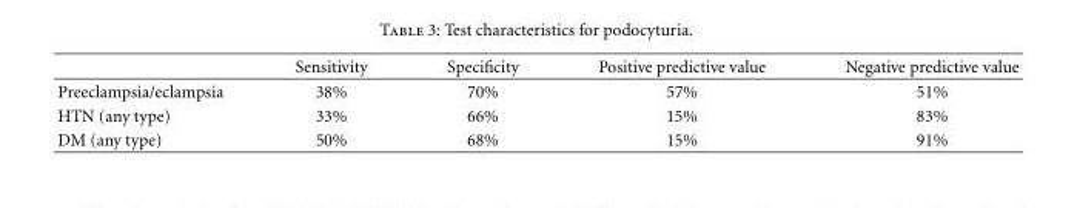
<table><thead><tr><td></td><td>Sensitivity</td><td>Specificity</td><td>Positive predictive value</td><td>Negative predictive value</td></tr></thead><tbody><tr><td>Preeclampsia/eclampsia</td><td>38%</td><td>70%</td><td>57%</td><td>51%</td></tr><tr><td>HTN (any type)</td><td>33%</td><td>66%</td><td>15%</td><td>83%</td></tr><tr><td>DM (any type)</td><td>50%</td><td>68%</td><td>15%</td><td>91%</td></tr></tbody></table>